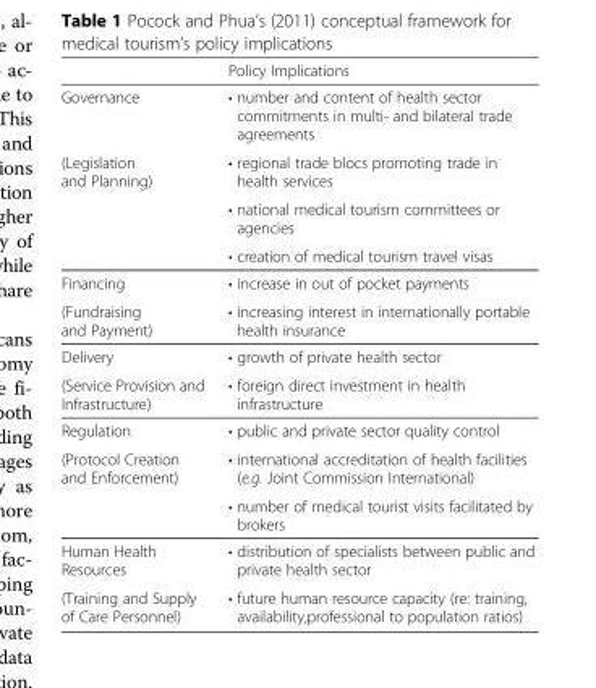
<table><thead><tr><td></td><td>Policy Implications</td></tr></thead><tbody><tr><td>Governance</td><td>• number and content of health sector commitments in multi- and bilateral trade agreements</td></tr><tr><td rowspan="3">(Legislation and Planning)</td><td>• regional trade blocs promoting trade in health services</td></tr><tr><td>• national medical tourism committees or agencies</td></tr><tr><td>• creation of medical tourism travel visas</td></tr><tr><td>Financing</td><td>• increase in out of pocket payments</td></tr><tr><td>(Fundraising and Payment)</td><td>• increasing interest in internationally portable health insurance</td></tr><tr><td>Delivery</td><td>• growth of private health sector</td></tr><tr><td>(Service Provision and Infrastructure)</td><td>• foreign direct investment in health infrastructure</td></tr><tr><td>Regulation</td><td>• public and private sector quality control</td></tr><tr><td rowspan="2">(Protocol Creation and Enforcement)</td><td>• international accreditation of health facilities (e.g. Joint Commission International)</td></tr><tr><td>• number of medical tourist visits facilitated by brokers</td></tr><tr><td>Human Health Resources</td><td>• distribution of specialists between public and private health sector</td></tr><tr><td>(Training and Supply of Care Personnel)</td><td>• future human resource capacity (re: training, availability,professional to population ratios)</td></tr></tbody></table>